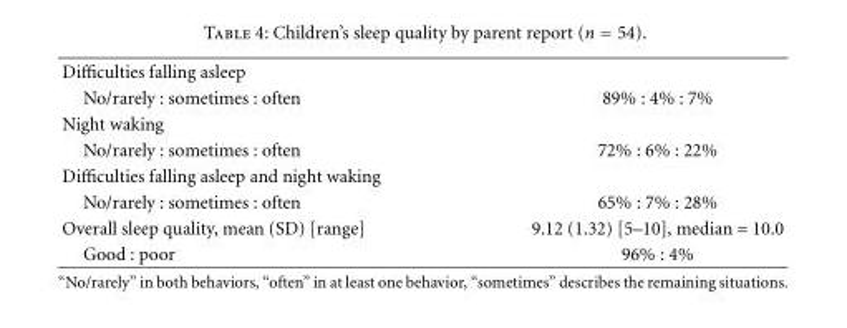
<table><tbody><tr><td colspan="2">Difficulties falling asleep</td></tr><tr><td>No/rarely : sometimes : often</td><td>89% : 4% : 7%</td></tr><tr><td colspan="2">Night waking</td></tr><tr><td>No/rarely : sometimes : often</td><td>72% : 6% : 22%</td></tr><tr><td colspan="2">Difficulties falling asleep and night waking</td></tr><tr><td>No/rarely : sometimes : often</td><td>65% : 7% : 28%</td></tr><tr><td>Overall sleep quality, mean (SD) [range]</td><td>9.12 (1.32) [5–10], median = 10.0</td></tr><tr><td>Good : poor</td><td>96% : 4%</td></tr></tbody></table>